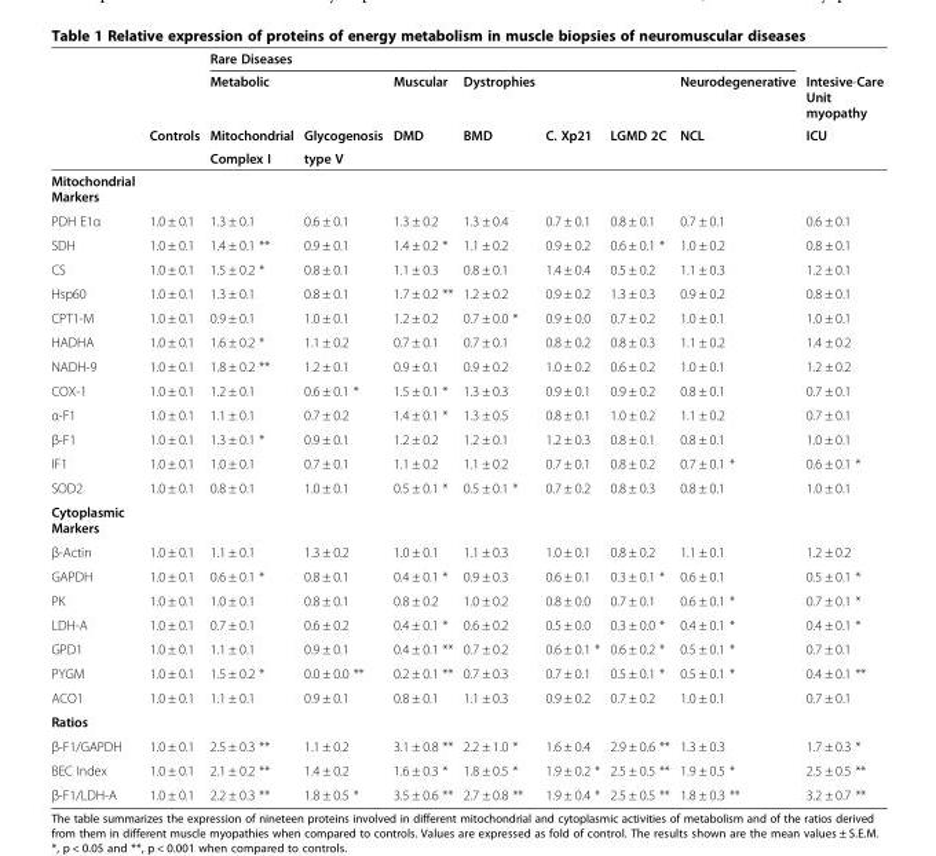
<table><thead><tr><td rowspan="4"></td><td rowspan="4">Controls</td><td colspan="7">Rare Diseases</td><td rowspan="4">Intesive-Care Unit myopathy ICU</td></tr><tr><td rowspan="3">Metabolic Mitochondrial Complex I</td><td rowspan="3">Glycogenosis type V</td><td rowspan="3">Muscular DMD</td><td rowspan="3">Dystrophies BMD</td><td rowspan="3">C. Xp21</td><td rowspan="3">LGMD 2C</td><td rowspan="3">Neurodegenerative NCL</td></tr><tr></tr><tr></tr></thead><tbody><tr><td colspan="10">Mitochondrial Markers</td></tr><tr><td>PDH E1α</td><td>1.0 ± 0.1</td><td>1.3 ± 0.1</td><td>0.6 ± 0.1</td><td>1.3 ± 0.2</td><td>1.3 ± 0.4</td><td>0.7 ± 0.1</td><td>0.8 ± 0.1</td><td>0.7 ± 0.1</td><td>0.6 ± 0.1</td></tr><tr><td>SDH</td><td>1.0 ± 0.1</td><td>1.4 ± 0.1 **</td><td>0.9 ± 0.1</td><td>1.4 ± 0.2 *</td><td>1.1 ± 0.2</td><td>0.9 ± 0.2</td><td>0.6 ± 0.1 *</td><td>1.0 ± 0.2</td><td>0.8 ± 0.1</td></tr><tr><td>CS</td><td>1.0 ± 0.1</td><td>1.5 ± 0.2 *</td><td>0.8 ± 0.1</td><td>1.1 ± 0.3</td><td>0.8 ± 0.1</td><td>1.4 ± 0.4</td><td>0.5 ± 0.2</td><td>1.1 ± 0.3</td><td>1.2 ± 0.1</td></tr><tr><td>Hsp60</td><td>1.0 ± 0.1</td><td>1.3 ± 0.1</td><td>0.8 ± 0.1</td><td>1.7 ± 0.2 **</td><td>1.2 ± 0.2</td><td>0.9 ± 0.2</td><td>1.3 ± 0.3</td><td>0.9 ± 0.2</td><td>0.8 ± 0.1</td></tr><tr><td>CPT1-M</td><td>1.0 ± 0.1</td><td>0.9 ± 0.1</td><td>1.0 ± 0.1</td><td>1.2 ± 0.2</td><td>0.7 ± 0.0 *</td><td>0.9 ± 0.0</td><td>0.7 ± 0.2</td><td>1.0 ± 0.1</td><td>1.0 ± 0.1</td></tr><tr><td>HADHA</td><td>1.0 ± 0.1</td><td>1.6 ± 0.2 *</td><td>1.1 ± 0.2</td><td>0.7 ± 0.1</td><td>0.7 ± 0.1</td><td>0.8 ± 0.2</td><td>0.8 ± 0.3</td><td>1.1 ± 0.2</td><td>1.4 ± 0.2</td></tr><tr><td>NADH-9</td><td>1.0 ± 0.1</td><td>1.8 ± 0.2 **</td><td>1.2 ± 0.1</td><td>0.9 ± 0.1</td><td>0.9 ± 0.2</td><td>1.0 ± 0.2</td><td>0.6 ± 0.2</td><td>1.0 ± 0.1</td><td>1.2 ± 0.2</td></tr><tr><td>COX-1</td><td>1.0 ± 0.1</td><td>1.2 ± 0.1</td><td>0.6 ± 0.1 *</td><td>1.5 ± 0.1 *</td><td>1.3 ± 0.3</td><td>0.9 ± 0.1</td><td>0.9 ± 0.2</td><td>0.8 ± 0.1</td><td>0.7 ± 0.1</td></tr><tr><td>α-F1</td><td>1.0 ± 0.1</td><td>1.1 ± 0.1</td><td>0.7 ± 0.2</td><td>1.4 ± 0.1 *</td><td>1.3 ± 0.5</td><td>0.8 ± 0.1</td><td>1.0 ± 0.2</td><td>1.1 ± 0.2</td><td>0.7 ± 0.1</td></tr><tr><td>β-F1</td><td>1.0 ± 0.1</td><td>1.3 ± 0.1 *</td><td>0.9 ± 0.1</td><td>1.2 ± 0.2</td><td>1.2 ± 0.1</td><td>1.2 ± 0.3</td><td>0.8 ± 0.1</td><td>0.8 ± 0.1</td><td>1.0 ± 0.1</td></tr><tr><td>IF1</td><td>1.0 ± 0.1</td><td>1.0 ± 0.1</td><td>0.7 ± 0.1</td><td>1.1 ± 0.2</td><td>1.1 ± 0.2</td><td>0.7 ± 0.1</td><td>0.8 ± 0.2</td><td>0.7 ± 0.1 *</td><td>0.6 ± 0.1 *</td></tr><tr><td>SOD2</td><td>1.0 ± 0.1</td><td>0.8 ± 0.1</td><td>1.0 ± 0.1</td><td>0.5 ± 0.1 *</td><td>0.5 ± 0.1 *</td><td>0.7 ± 0.2</td><td>0.8 ± 0.3</td><td>0.8 ± 0.1</td><td>1.0 ± 0.1</td></tr><tr><td colspan="10">Cytoplasmic Markers</td></tr><tr><td>β-Actin</td><td>1.0 ± 0.1</td><td>1.1 ± 0.1</td><td>1.3 ± 0.2</td><td>1.0 ± 0.1</td><td>1.1 ± 0.3</td><td>1.0 ± 0.1</td><td>0.8 ± 0.2</td><td>1.1 ± 0.1</td><td>1.2 ± 0.2</td></tr><tr><td>GAPDH</td><td>1.0 ± 0.1</td><td>0.6 ± 0.1 *</td><td>0.8 ± 0.1</td><td>0.4 ± 0.1 *</td><td>0.9 ± 0.3</td><td>0.6 ± 0.1</td><td>0.3 ± 0.1 *</td><td>0.6 ± 0.1</td><td>0.5 ± 0.1 *</td></tr><tr><td>PK</td><td>1.0 ± 0.1</td><td>1.0 ± 0.1</td><td>0.8 ± 0.1</td><td>0.8 ± 0.2</td><td>1.0 ± 0.2</td><td>0.8 ± 0.0</td><td>0.7 ± 0.1</td><td>0.6 ± 0.1 *</td><td>0.7 ± 0.1 *</td></tr><tr><td>LDH-A</td><td>1.0 ± 0.1</td><td>0.7 ± 0.1</td><td>0.6 ± 0.2</td><td>0.4 ± 0.1 *</td><td>0.6 ± 0.2</td><td>0.5 ± 0.0</td><td>0.3 ± 0.0 *</td><td>0.4 ± 0.1 *</td><td>0.4 ± 0.1 *</td></tr><tr><td>GPD1</td><td>1.0 ± 0.1</td><td>1.1 ± 0.1</td><td>0.9 ± 0.1</td><td>0.4 ± 0.1 **</td><td>0.7 ± 0.2</td><td>0.6 ± 0.1 *</td><td>0.6 ± 0.2 *</td><td>0.5 ± 0.1 *</td><td>0.7 ± 0.1</td></tr><tr><td>PYGM</td><td>1.0 ± 0.1</td><td>1.5 ± 0.2 *</td><td>0.0 ± 0.0 **</td><td>0.2 ± 0.1 **</td><td>0.7 ± 0.3</td><td>0.7 ± 0.1</td><td>0.5 ± 0.1 *</td><td>0.5 ± 0.1 *</td><td>0.4 ± 0.1 **</td></tr><tr><td>ACO1</td><td>1.0 ± 0.1</td><td>1.1 ± 0.1</td><td>0.9 ± 0.1</td><td>0.8 ± 0.1</td><td>1.1 ± 0.3</td><td>0.9 ± 0.2</td><td>0.7 ± 0.2</td><td>1.0 ± 0.1</td><td>0.7 ± 0.1</td></tr><tr><td colspan="10">Ratios</td></tr><tr><td>β-F1/GAPDH</td><td>1.0 ± 0.1</td><td>2.5 ± 0.3 **</td><td>1.1 ± 0.2</td><td>3.1 ± 0.8 **</td><td>2.2 ± 1.0 *</td><td>1.6 ± 0.4</td><td>2.9 ± 0.6 **</td><td>1.3 ± 0.3</td><td>1.7 ± 0.3 *</td></tr><tr><td>BEC Index</td><td>1.0 ± 0.1</td><td>2.1 ± 0.2 **</td><td>1.4 ± 0.2</td><td>1.6 ± 0.3 *</td><td>1.8 ± 0.5 *</td><td>1.9 ± 0.2 *</td><td>2.5 ± 0.5 **</td><td>1.9 ± 0.5 *</td><td>2.5 ± 0.5 **</td></tr><tr><td>β-F1/LDH-A</td><td>1.0 ± 0.1</td><td>2.2 ± 0.3 **</td><td>1.8 ± 0.5 *</td><td>3.5 ± 0.6 **</td><td>2.7 ± 0.8 **</td><td>1.9 ± 0.4 *</td><td>2.5 ± 0.5 **</td><td>1.8 ± 0.3 **</td><td>3.2 ± 0.7 **</td></tr></tbody></table>